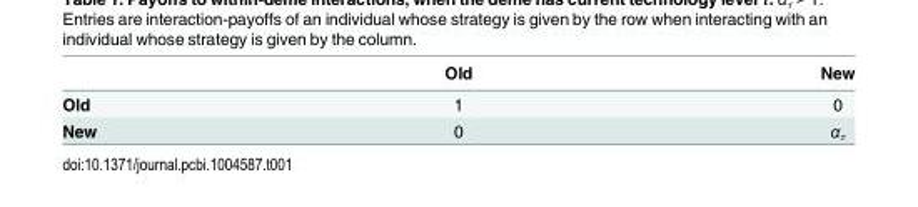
<table><thead><tr><td></td><td>Old</td><td>New</td></tr></thead><tbody><tr><td>Old</td><td>1</td><td>0</td></tr><tr><td>New</td><td>0</td><td>α<sub>τ</sub></td></tr></tbody></table>